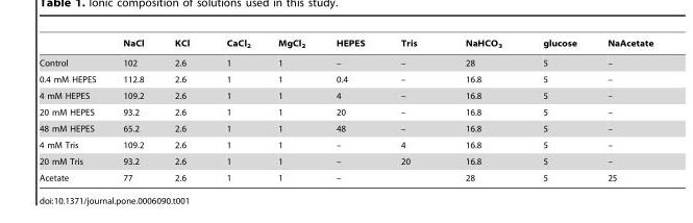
<table><thead><tr><td></td><td>NaCl</td><td>KCl</td><td>CaCl<sub>2</sub></td><td>MgCl<sub>2</sub></td><td>HEPES</td><td>Tris</td><td>NaHCO<sub>3</sub></td><td>glucose</td><td>NaAcetate</td></tr></thead><tbody><tr><td>Control</td><td>102</td><td>2.6</td><td>1</td><td>1</td><td>–</td><td>–</td><td>28</td><td>5</td><td>–</td></tr><tr><td>0.4 mM HEPES</td><td>112.8</td><td>2.6</td><td>1</td><td>1</td><td>0.4</td><td>–</td><td>16.8</td><td>5</td><td>–</td></tr><tr><td>4 mM HEPES</td><td>109.2</td><td>2.6</td><td>1</td><td>1</td><td>4</td><td>–</td><td>16.8</td><td>5</td><td>–</td></tr><tr><td>20 mM HEPES</td><td>93.2</td><td>2.6</td><td>1</td><td>1</td><td>20</td><td>–</td><td>16.8</td><td>5</td><td>–</td></tr><tr><td>48 mM HEPES</td><td>65.2</td><td>2.6</td><td>1</td><td>1</td><td>48</td><td>–</td><td>16.8</td><td>5</td><td>–</td></tr><tr><td>4 mM Tris</td><td>109.2</td><td>2.6</td><td>1</td><td>1</td><td>–</td><td>4</td><td>16.8</td><td>5</td><td>–</td></tr><tr><td>20 mM Tris</td><td>93.2</td><td>2.6</td><td>1</td><td>1</td><td>–</td><td>20</td><td>16.8</td><td>5</td><td>–</td></tr><tr><td>Acetate</td><td>77</td><td>2.6</td><td>1</td><td>1</td><td>–</td><td></td><td>28</td><td>5</td><td>25</td></tr></tbody></table>